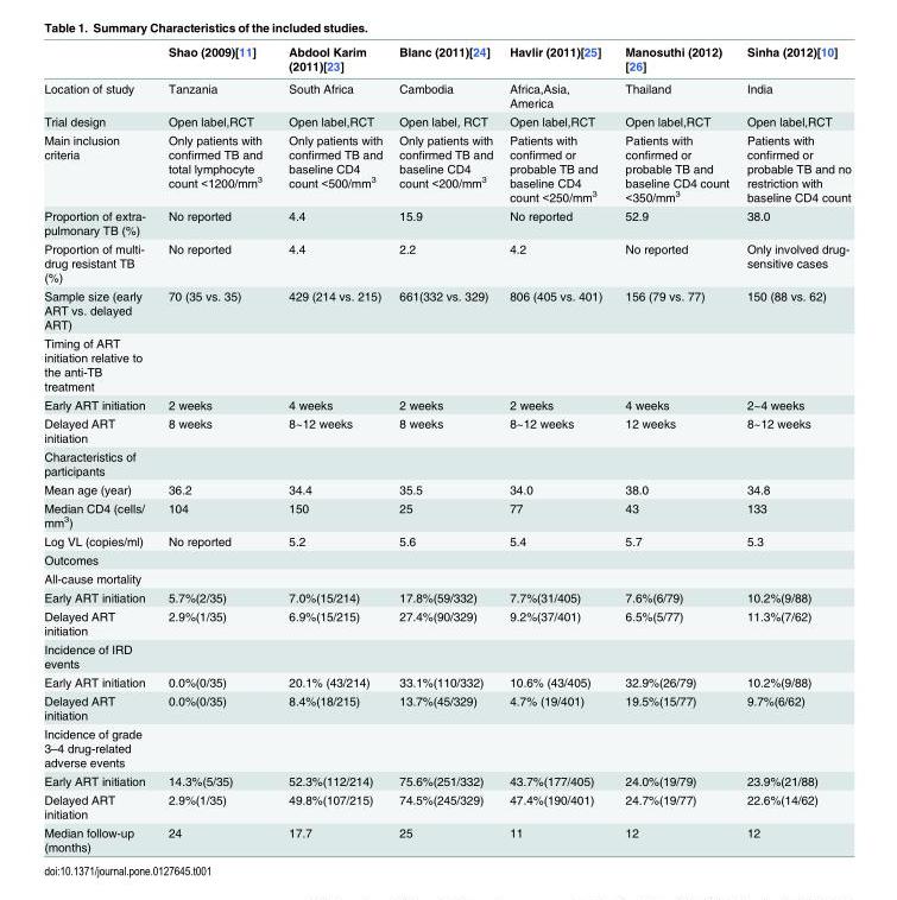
<table><thead><tr><td></td><td>Shao (2009)[11]</td><td>Abdool Karim (2011)[23]</td><td>Blanc (2011)[24]</td><td>Havlir (2011)[25]</td><td>Manosuthi (2012) [26]</td><td>Sinha (2012)[10]</td></tr></thead><tbody><tr><td>Location of study</td><td>Tanzania</td><td>South Africa</td><td>Cambodia</td><td>Africa,Asia, America</td><td>Thailand</td><td>India</td></tr><tr><td>Trial design</td><td>Open label,RCT</td><td>Open label,RCT</td><td>Open label, RCT</td><td>Open label,RCT</td><td>Open label,RCT</td><td>Open label,RCT</td></tr><tr><td>Main inclusion criteria</td><td>Only patients with confirmed TB and total lymphocyte count &lt;1200/mm<sup>3</sup></td><td>Only patients with confirmed TB and baseline CD4 count &lt;500/mm<sup>3</sup></td><td>Only patients with confirmed TB and baseline CD4 count &lt;200/mm<sup>3</sup></td><td>Patients with confirmed or probable TB and baseline CD4 count &lt;250/mm<sup>3</sup></td><td>Patients with confirmed or probable TB and baseline CD4 count &lt;350/mm<sup>3</sup></td><td>Patients with confirmed or probable TB and no restriction with baseline CD4 count</td></tr><tr><td>Proportion of extra- pulmonary TB (%)</td><td>No reported</td><td>4.4</td><td>15.9</td><td>No reported</td><td>52.9</td><td>38.0</td></tr><tr><td>Proportion of multi- drug resistant TB (%)</td><td>No reported</td><td>4.4</td><td>2.2</td><td>4.2</td><td>No reported</td><td>Only involved drug- sensitive cases</td></tr><tr><td>Sample size (early ART vs. delayed ART)</td><td>70 (35 vs. 35)</td><td>429 (214 vs. 215)</td><td>661(332 vs. 329)</td><td>806 (405 vs. 401)</td><td>156 (79 vs. 77)</td><td>150 (88 vs. 62)</td></tr><tr><td colspan="7">Timing of ART initiation relative to the anti-TB treatment</td></tr><tr><td>Early ART initiation</td><td>2 weeks</td><td>4 weeks</td><td>2 weeks</td><td>2 weeks</td><td>4 weeks</td><td>2~4 weeks</td></tr><tr><td>Delayed ART initiation</td><td>8 weeks</td><td>8~12 weeks</td><td>8 weeks</td><td>8~12 weeks</td><td>12 weeks</td><td>8~12 weeks</td></tr><tr><td colspan="7">Characteristics of participants</td></tr><tr><td>Mean age (year)</td><td>36.2</td><td>34.4</td><td>35.5</td><td>34.0</td><td>38.0</td><td>34.8</td></tr><tr><td>Median CD4 (cells/ mm<sup>3</sup>)</td><td>104</td><td>150</td><td>25</td><td>77</td><td>43</td><td>133</td></tr><tr><td>Log VL (copies/ml)</td><td>No reported</td><td>5.2</td><td>5.6</td><td>5.4</td><td>5.7</td><td>5.3</td></tr><tr><td colspan="7">Outcomes</td></tr><tr><td colspan="7">All-cause mortality</td></tr><tr><td>Early ART initiation</td><td>5.7%(2/35)</td><td>7.0%(15/214)</td><td>17.8%(59/332)</td><td>7.7%(31/405)</td><td>7.6%(6/79)</td><td>10.2%(9/88)</td></tr><tr><td>Delayed ART initiation</td><td>2.9%(1/35)</td><td>6.9%(15/215)</td><td>27.4%(90/329)</td><td>9.2%(37/401)</td><td>6.5%(5/77)</td><td>11.3%(7/62)</td></tr><tr><td colspan="7">Incidence of IRD events</td></tr><tr><td>Early ART initiation</td><td>0.0%(0/35)</td><td>20.1% (43/214)</td><td>33.1%(110/332)</td><td>10.6% (43/405)</td><td>32.9%(26/79)</td><td>10.2%(9/88)</td></tr><tr><td>Delayed ART initiation</td><td>0.0%(0/35)</td><td>8.4%(18/215)</td><td>13.7%(45/329)</td><td>4.7% (19/401)</td><td>19.5%(15/77)</td><td>9.7%(6/62)</td></tr><tr><td colspan="7">Incidence of grade 3–4 drug-related adverse events</td></tr><tr><td>Early ART initiation</td><td>14.3%(5/35)</td><td>52.3%(112/214)</td><td>75.6%(251/332)</td><td>43.7%(177/405)</td><td>24.0%(19/79)</td><td>23.9%(21/88)</td></tr><tr><td>Delayed ART initiation</td><td>2.9%(1/35)</td><td>49.8%(107/215)</td><td>74.5%(245/329)</td><td>47.4%(190/401)</td><td>24.7%(19/77)</td><td>22.6%(14/62)</td></tr><tr><td>Median follow-up (months)</td><td>24</td><td>17.7</td><td>25</td><td>11</td><td>12</td><td>12</td></tr></tbody></table>